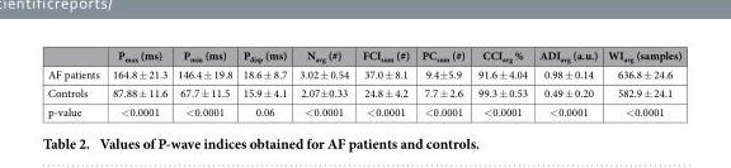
<table><thead><tr><td></td><td>P<sub>max</sub> (ms)</td><td>P<sub>min</sub> (ms)</td><td>P<sub>disp</sub> (ms)</td><td>N<sub>avg</sub> (#)</td><td>FCI<sub>sum</sub> (#)</td><td>PC<sub>sum</sub> (#)</td><td>CCI<sub>avg</sub> %</td><td>ADI<sub>avg</sub> (a.u.)</td><td>WI<sub>avg</sub> (samples)</td></tr></thead><tbody><tr><td>AF patients</td><td>164.8 ± 21.3</td><td>146.4 ± 19.8</td><td>18.6 ± 8.7</td><td>3.02 ± 0.54</td><td>37.0 ± 8.1</td><td>9.4± 5.9</td><td>91.6 ± 4.04</td><td>0.98 ± 0.14</td><td>636.8 ± 24.6</td></tr><tr><td>Controls</td><td>87.88 ± 11.6</td><td>67.7 ± 11.5</td><td>15.9 ± 4.1</td><td>2.07± 0.33</td><td>24.8 ± 4.2</td><td>7.7 ± 2.6</td><td>99.3 ± 0.53</td><td>0.49 ± 0.20</td><td>582.9 ± 24.1</td></tr><tr><td>p-value</td><td>&lt; 0.0001</td><td>&lt; 0.0001</td><td>0.06</td><td>&lt; 0.0001</td><td>&lt; 0.0001</td><td>&lt; 0.0001</td><td>&lt; 0.0001</td><td>&lt; 0.0001</td><td>&lt; 0.0001</td></tr></tbody></table>